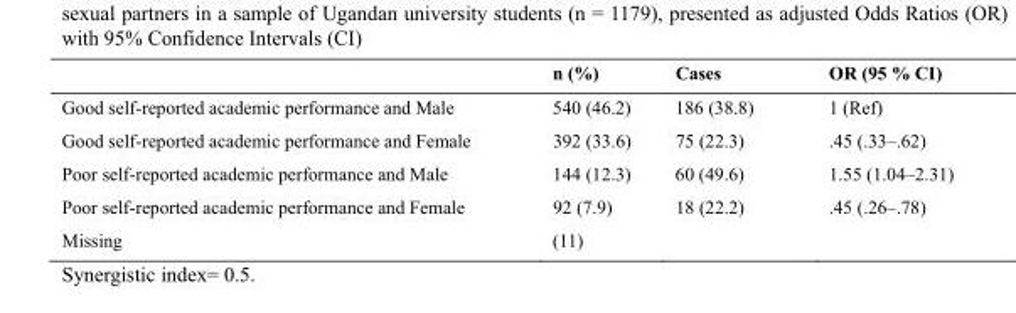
<table><thead><tr><td></td><td>n (%)</td><td>Cases</td><td>OR (95 % CI)</td></tr></thead><tbody><tr><td>Good self-reported academic performance and Male</td><td>540 (46.2)</td><td>186 (38.8)</td><td>1 (Ref)</td></tr><tr><td>Good self-reported academic performance and Female</td><td>392 (33.6)</td><td>75 (22.3)</td><td>.45 (.33–.62)</td></tr><tr><td>Poor self-reported academic performance and Male</td><td>144 (12.3)</td><td>60 (49.6)</td><td>1.55 (1.04–2.31)</td></tr><tr><td>Poor self-reported academic performance and Female</td><td>92 (7.9)</td><td>18 (22.2)</td><td>.45 (.26–.78)</td></tr><tr><td>Missing</td><td>(11)</td><td></td><td></td></tr></tbody></table>